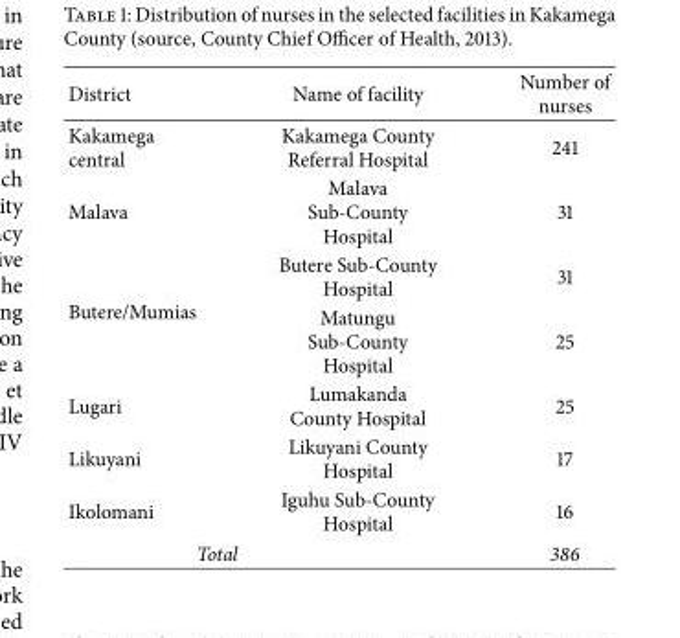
<table><thead><tr><td>District</td><td>Name of facility</td><td>Number of nurses</td></tr></thead><tbody><tr><td>Kakamega central</td><td>Kakamega County Referral Hospital</td><td>241</td></tr><tr><td>Malava</td><td>Malava Sub-County Hospital</td><td>31</td></tr><tr><td rowspan="2">Butere/Mumias</td><td>Butere Sub-County Hospital</td><td>31</td></tr><tr><td>Matungu Sub-County Hospital</td><td>25</td></tr><tr><td>Lugari</td><td>Lumakanda County Hospital</td><td>25</td></tr><tr><td>Likuyani</td><td>Likuyani County Hospital</td><td>17</td></tr><tr><td>Ikolomani</td><td>Iguhu Sub-County Hospital</td><td>16</td></tr><tr><td colspan="2">Total</td><td>386</td></tr></tbody></table>